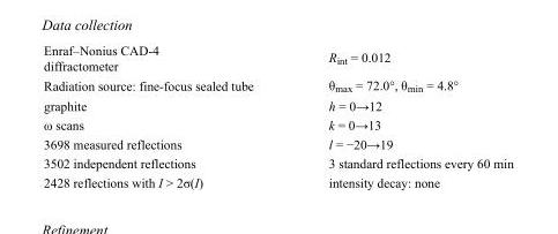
<table><tbody><tr><td>Enraf–Nonius CAD-4 diffractometer</td><td>R<sub>int</sub> = 0.012</td></tr><tr><td>Radiation source: fine-focus sealed tube</td><td>θ<sub>max</sub> = 72.0°, θ<sub>min</sub> = 4.8°</td></tr><tr><td>graphite</td><td>h = 0→12</td></tr><tr><td>ω scans</td><td>k = 0→13</td></tr><tr><td>3698 measured reflections</td><td>l = −20→19</td></tr><tr><td>3502 independent reflections</td><td>3 standard reflections every 60 min</td></tr><tr><td>2428 reflections with I &gt; 2σ(I)</td><td>intensity decay: none</td></tr></tbody></table>